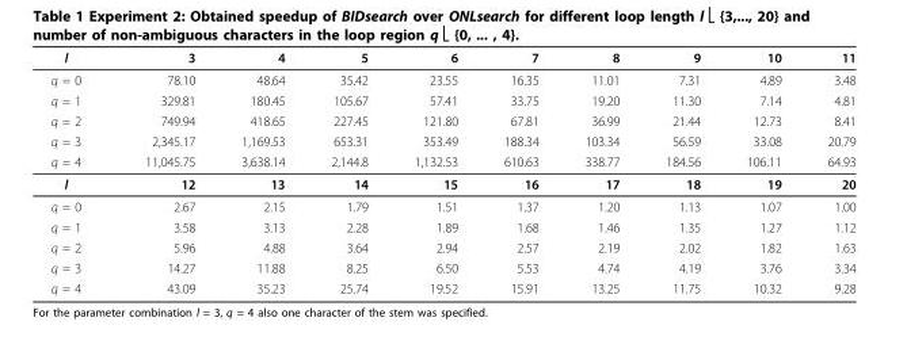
<table><thead><tr><td>l</td><td>3</td><td>4</td><td>5</td><td>6</td><td>7</td><td>8</td><td>9</td><td>10</td><td>11</td></tr></thead><tbody><tr><td>q = 0</td><td>78.10</td><td>48.64</td><td>35.42</td><td>23.55</td><td>16.35</td><td>11.01</td><td>7.31</td><td>4.89</td><td>3.48</td></tr><tr><td>q = 1</td><td>329.81</td><td>180.45</td><td>105.67</td><td>57.41</td><td>33.75</td><td>19.20</td><td>11.30</td><td>7.14</td><td>4.81</td></tr><tr><td>q = 2</td><td>749.94</td><td>418.65</td><td>227.45</td><td>121.80</td><td>67.81</td><td>36.99</td><td>21.44</td><td>12.73</td><td>8.41</td></tr><tr><td>q = 3</td><td>2,345.17</td><td>1,169.53</td><td>653.31</td><td>353.49</td><td>188.34</td><td>103.34</td><td>56.59</td><td>33.08</td><td>20.79</td></tr><tr><td>q = 4</td><td>11,045.75</td><td>3,638.14</td><td>2,144.8</td><td>1,132.53</td><td>610.63</td><td>338.77</td><td>184.56</td><td>106.11</td><td>64.93</td></tr><tr><td>l</td><td>12</td><td>13</td><td>14</td><td>15</td><td>16</td><td>17</td><td>18</td><td>19</td><td>20</td></tr><tr><td>q = 0</td><td>2.67</td><td>2.15</td><td>1.79</td><td>1.51</td><td>1.37</td><td>1.20</td><td>1.13</td><td>1.07</td><td>1.00</td></tr><tr><td>q = 1</td><td>3.58</td><td>3.13</td><td>2.28</td><td>1.89</td><td>1.68</td><td>1.46</td><td>1.35</td><td>1.27</td><td>1.12</td></tr><tr><td>q = 2</td><td>5.96</td><td>4.88</td><td>3.64</td><td>2.94</td><td>2.57</td><td>2.19</td><td>2.02</td><td>1.82</td><td>1.63</td></tr><tr><td>q = 3</td><td>14.27</td><td>11.88</td><td>8.25</td><td>6.50</td><td>5.53</td><td>4.74</td><td>4.19</td><td>3.76</td><td>3.34</td></tr><tr><td>q = 4</td><td>43.09</td><td>35.23</td><td>25.74</td><td>19.52</td><td>15.91</td><td>13.25</td><td>11.75</td><td>10.32</td><td>9.28</td></tr></tbody></table>